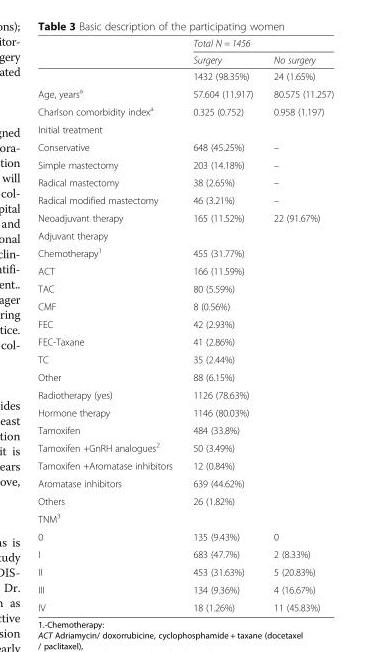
<table><thead><tr><td rowspan="2"></td><td colspan="2">Total N = 1456</td></tr><tr><td>Surgery</td><td>No surgery</td></tr></thead><tbody><tr><td></td><td>1432 (98.35%)</td><td>24 (1.65%)</td></tr><tr><td>Age, years<sup>a</sup></td><td>57.604 (11.917)</td><td>80.575 (11.257)</td></tr><tr><td>Charlson comorbidity index<sup>a</sup></td><td>0.325 (0.752)</td><td>0.958 (1.197)</td></tr><tr><td colspan="3">Initial treatment</td></tr><tr><td>Conservative</td><td>648 (45.25%)</td><td>–</td></tr><tr><td>Simple mastectomy</td><td>203 (14.18%)</td><td>–</td></tr><tr><td>Radical mastectomy</td><td>38 (2.65%)</td><td>–</td></tr><tr><td>Radical modified mastectomy</td><td>46 (3.21%)</td><td>–</td></tr><tr><td>Neoadjuvant therapy</td><td>165 (11.52%)</td><td>22 (91.67%)</td></tr><tr><td colspan="3">Adjuvant therapy</td></tr><tr><td>Chemotherapy<sup>1</sup></td><td>455 (31.77%)</td><td></td></tr><tr><td>ACT</td><td>166 (11.59%)</td><td></td></tr><tr><td>TAC</td><td>80 (5.59%)</td><td></td></tr><tr><td>CMF</td><td>8 (0.56%)</td><td></td></tr><tr><td>FEC</td><td>42 (2.93%)</td><td></td></tr><tr><td>FEC-Taxane</td><td>41 (2.86%)</td><td></td></tr><tr><td>TC</td><td>35 (2.44%)</td><td></td></tr><tr><td>Other</td><td>88 (6.15%)</td><td></td></tr><tr><td>Radiotherapy (yes)</td><td>1126 (78.63%)</td><td></td></tr><tr><td>Hormone therapy</td><td>1146 (80.03%)</td><td></td></tr><tr><td>Tamoxifen</td><td>484 (33.8%)</td><td></td></tr><tr><td>Tamoxifen +GnRH analogues<sup>2</sup></td><td>50 (3.49%)</td><td></td></tr><tr><td>Tamoxifen +Aromatase inhibitors</td><td>12 (0.84%)</td><td></td></tr><tr><td>Aromatase inhibitors</td><td>639 (44.62%)</td><td></td></tr><tr><td>Others</td><td>26 (1.82%)</td><td></td></tr><tr><td colspan="3">TNM<sup>3</sup></td></tr><tr><td>0</td><td>135 (9.43%)</td><td>0</td></tr><tr><td>I</td><td>683 (47.7%)</td><td>2 (8.33%)</td></tr><tr><td>II</td><td>453 (31.63%)</td><td>5 (20.83%)</td></tr><tr><td>III</td><td>134 (9.36%)</td><td>4 (16.67%)</td></tr><tr><td>IV</td><td>18 (1.26%)</td><td>11 (45.83%)</td></tr></tbody></table>